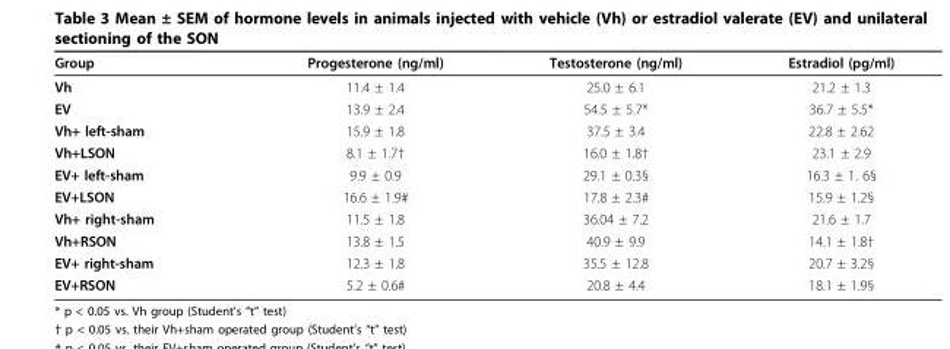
<table><thead><tr><td>Group</td><td>Progesterone (ng/ml)</td><td>Testosterone (ng/ml)</td><td>Estradiol (pg/ml)</td></tr></thead><tbody><tr><td>Vh</td><td>11.4 ± 1.4</td><td>25.0 ± 6.1</td><td>21.2 ± 1.3</td></tr><tr><td>EV</td><td>13.9 ± 2.4</td><td>54.5 ± 5.7*</td><td>36.7 ± 5.5*</td></tr><tr><td>Vh+ left-sham</td><td>15.9 ± 1.8</td><td>37.5 ± 3.4</td><td>22.8 ± 2.62</td></tr><tr><td>Vh+LSON</td><td>8.1 ± 1.7†</td><td>16.0 ± 1.8†</td><td>23.1 ± 2.9</td></tr><tr><td>EV+ left-sham</td><td>9.9 ± 0.9</td><td>29.1 ± 0.3§</td><td>16.3 ± 1. 6§</td></tr><tr><td>EV+LSON</td><td>16.6 ± 1.9#</td><td>17.8 ± 2.3#</td><td>15.9 ± 1.2§</td></tr><tr><td>Vh+ right-sham</td><td>11.5 ± 1.8</td><td>36.04 ± 7.2</td><td>21.6 ± 1.7</td></tr><tr><td>Vh+RSON</td><td>13.8 ± 1.5</td><td>40.9 ± 9.9</td><td>14.1 ± 1.8†</td></tr><tr><td>EV+ right-sham</td><td>12.3 ± 1.8</td><td>35.5 ± 12.8</td><td>20.7 ± 3.2§</td></tr><tr><td>EV+RSON</td><td>5.2 ± 0.6#</td><td>20.8 ± 4.4</td><td>18.1 ± 1.9§</td></tr></tbody></table>